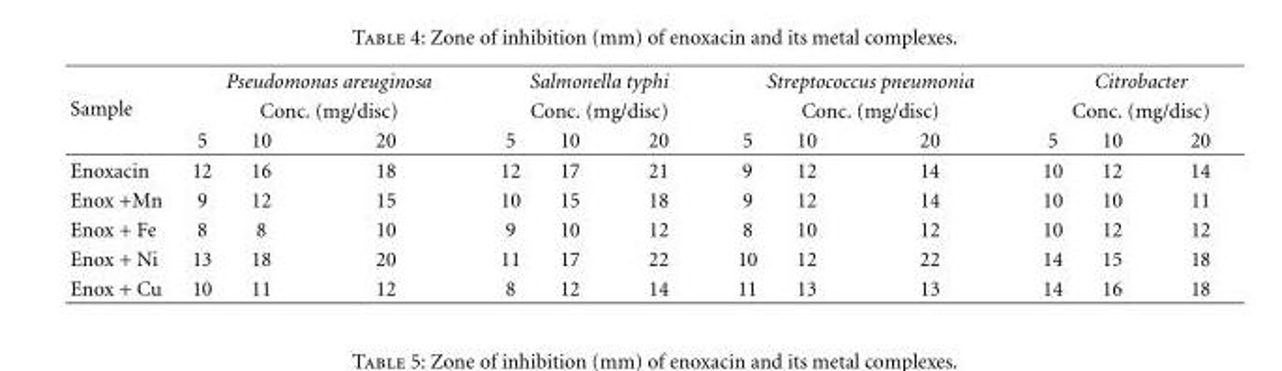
<table><thead><tr><td rowspan="3">Sample</td><td rowspan="2" colspan="3">Pseudomonas areuginosa Conc. (mg/disc)</td><td rowspan="2" colspan="3">Salmonella typhi Conc. (mg/disc)</td><td rowspan="2" colspan="3">Streptococcus pneumonia Conc. (mg/disc)</td><td rowspan="2" colspan="3">Citrobacter Conc. (mg/disc)</td></tr><tr></tr><tr><td>5</td><td>10</td><td>20</td><td>5</td><td>10</td><td>20</td><td>5</td><td>10</td><td>20</td><td>5</td><td>10</td><td>20</td></tr></thead><tbody><tr><td>Enoxacin</td><td>12</td><td>16</td><td>18</td><td>12</td><td>17</td><td>21</td><td>9</td><td>12</td><td>14</td><td>10</td><td>12</td><td>14</td></tr><tr><td>Enox +Mn</td><td>9</td><td>12</td><td>15</td><td>10</td><td>15</td><td>18</td><td>9</td><td>12</td><td>14</td><td>10</td><td>10</td><td>11</td></tr><tr><td>Enox + Fe</td><td>8</td><td>8</td><td>10</td><td>9</td><td>10</td><td>12</td><td>8</td><td>10</td><td>12</td><td>10</td><td>12</td><td>12</td></tr><tr><td>Enox + Ni</td><td>13</td><td>18</td><td>20</td><td>11</td><td>17</td><td>22</td><td>10</td><td>12</td><td>22</td><td>14</td><td>15</td><td>18</td></tr><tr><td>Enox + Cu</td><td>10</td><td>11</td><td>12</td><td>8</td><td>12</td><td>14</td><td>11</td><td>13</td><td>13</td><td>14</td><td>16</td><td>18</td></tr></tbody></table>